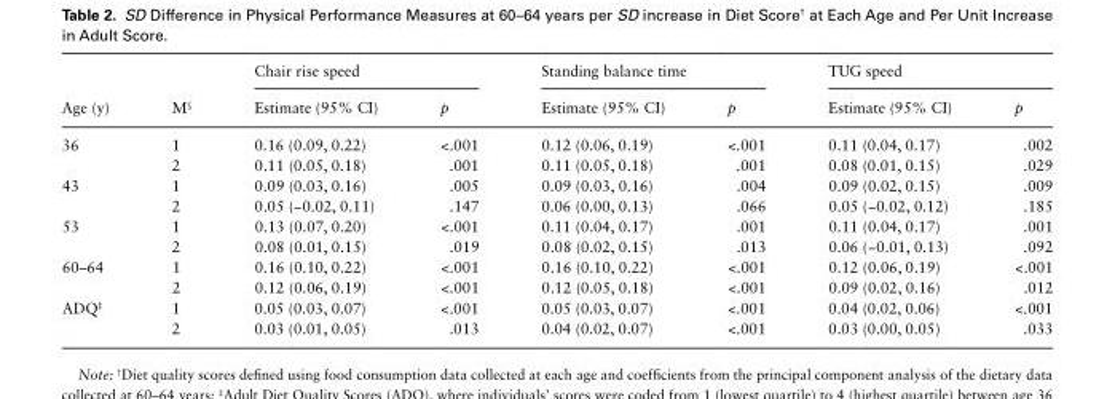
<table><thead><tr><td rowspan="2">Age (y)</td><td rowspan="2">M<sup>§</sup></td><td colspan="2">Chair rise speed</td><td colspan="2">Standing balance time</td><td colspan="2">TUG speed</td></tr><tr><td>Estimate (95% CI)</td><td>p</td><td>Estimate (95% CI)</td><td>p</td><td>Estimate (95% CI)</td><td>p</td></tr></thead><tbody><tr><td rowspan="2">36</td><td>1</td><td>0.16 (0.09, 0.22)</td><td>&lt;.001</td><td>0.12 (0.06, 0.19)</td><td>&lt;.001</td><td>0.11 (0.04, 0.17)</td><td>.002</td></tr><tr><td>2</td><td>0.11 (0.05, 0.18)</td><td>.001</td><td>0.11 (0.05, 0.18)</td><td>.001</td><td>0.08 (0.01, 0.15)</td><td>.029</td></tr><tr><td rowspan="2">43</td><td>1</td><td>0.09 (0.03, 0.16)</td><td>.005</td><td>0.09 (0.03, 0.16)</td><td>.004</td><td>0.09 (0.02, 0.15)</td><td>.009</td></tr><tr><td>2</td><td>0.05 (−0.02, 0.11)</td><td>.147</td><td>0.06 (0.00, 0.13)</td><td>.066</td><td>0.05 (−0.02, 0.12)</td><td>.185</td></tr><tr><td rowspan="2">53</td><td>1</td><td>0.13 (0.07, 0.20)</td><td>&lt;.001</td><td>0.11 (0.04, 0.17)</td><td>.001</td><td>0.11 (0.04, 0.17)</td><td>.001</td></tr><tr><td>2</td><td>0.08 (0.01, 0.15)</td><td>.019</td><td>0.08 (0.02, 0.15)</td><td>.013</td><td>0.06 (−0.01, 0.13)</td><td>.092</td></tr><tr><td rowspan="2">60–64</td><td>1</td><td>0.16 (0.10, 0.22)</td><td>&lt;.001</td><td>0.16 (0.10, 0.22)</td><td>&lt;.001</td><td>0.12 (0.06, 0.19)</td><td>&lt;.001</td></tr><tr><td>2</td><td>0.12 (0.06, 0.19)</td><td>&lt;.001</td><td>0.12 (0.05, 0.18)</td><td>&lt;.001</td><td>0.09 (0.02, 0.16)</td><td>.012</td></tr><tr><td rowspan="2">ADQ<sup>‡</sup></td><td>1</td><td>0.05 (0.03, 0.07)</td><td>&lt;.001</td><td>0.05 (0.03, 0.07)</td><td>&lt;.001</td><td>0.04 (0.02, 0.06)</td><td>&lt;.001</td></tr><tr><td>2</td><td>0.03 (0.01, 0.05)</td><td>.013</td><td>0.04 (0.02, 0.07)</td><td>&lt;.001</td><td>0.03 (0.00, 0.05)</td><td>.033</td></tr></tbody></table>